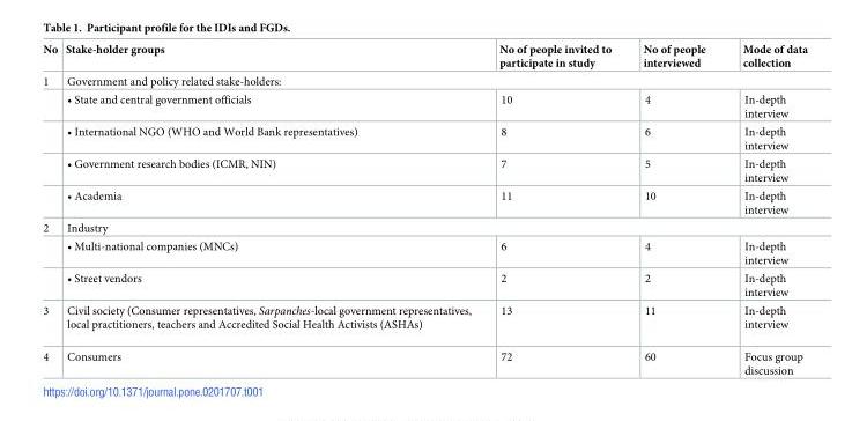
<table><thead><tr><td>No</td><td>Stake-holder groups</td><td>No of people invited to participate in study</td><td>No of people interviewed</td><td>Mode of data collection</td></tr></thead><tbody><tr><td rowspan="5">1</td><td colspan="4">Government and policy related stake-holders:</td></tr><tr><td>• State and central government officials</td><td>10</td><td>4</td><td>In-depth interview</td></tr><tr><td>• International NGO (WHO and World Bank representatives)</td><td>8</td><td>6</td><td>In-depth interview</td></tr><tr><td>• Government research bodies (ICMR, NIN)</td><td>7</td><td>5</td><td>In-depth interview</td></tr><tr><td>• Academia</td><td>11</td><td>10</td><td>In-depth interview</td></tr><tr><td rowspan="3">2</td><td colspan="4">Industry</td></tr><tr><td>• Multi-national companies (MNCs)</td><td>6</td><td>4</td><td>In-depth interview</td></tr><tr><td>• Street vendors</td><td>2</td><td>2</td><td>In-depth interview</td></tr><tr><td>3</td><td>Civil society (Consumer representatives, Sarpanches-local government representatives, local practitioners, teachers and Accredited Social Health Activists (ASHAs)</td><td>13</td><td>11</td><td>In-depth interview</td></tr><tr><td>4</td><td>Consumers</td><td>72</td><td>60</td><td>Focus group discussion</td></tr></tbody></table>